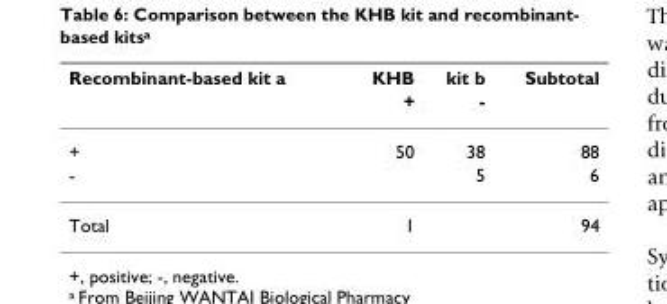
<table><thead><tr><td rowspan="2">Recombinant-based kit a</td><td rowspan="2">KHB +</td><td rowspan="2">kit b -</td><td rowspan="2">Subtotal</td></tr><tr></tr></thead><tbody><tr><td>+</td><td>50</td><td>38</td><td>88</td></tr><tr><td>-</td><td></td><td>5</td><td>6</td></tr><tr><td>Total</td><td>1</td><td></td><td>94</td></tr></tbody></table>